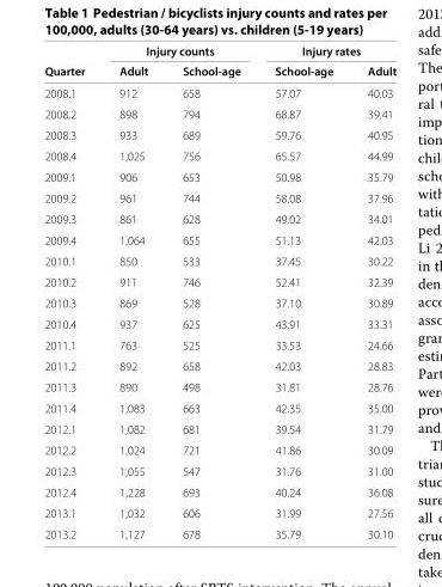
<table><thead><tr><td rowspan="2">Quarter</td><td colspan="2">Injury counts</td><td colspan="2">Injury rates</td></tr><tr><td>Adult</td><td>School-age</td><td>School-age</td><td>Adult</td></tr></thead><tbody><tr><td>2008.1</td><td>912</td><td>658</td><td>57.07</td><td>40.03</td></tr><tr><td>2008.2</td><td>898</td><td>794</td><td>68.87</td><td>39.41</td></tr><tr><td>2008.3</td><td>933</td><td>689</td><td>59.76</td><td>40.95</td></tr><tr><td>2008.4</td><td>1,025</td><td>756</td><td>65.57</td><td>44.99</td></tr><tr><td>2009.1</td><td>906</td><td>653</td><td>50.98</td><td>35.79</td></tr><tr><td>2009.2</td><td>961</td><td>744</td><td>58.08</td><td>37.96</td></tr><tr><td>2009.3</td><td>861</td><td>628</td><td>49.02</td><td>34.01</td></tr><tr><td>2009.4</td><td>1,064</td><td>655</td><td>51.13</td><td>42.03</td></tr><tr><td>2010.1</td><td>850</td><td>533</td><td>37.45</td><td>30.22</td></tr><tr><td>2010.2</td><td>911</td><td>746</td><td>52.41</td><td>32.39</td></tr><tr><td>2010.3</td><td>869</td><td>528</td><td>37.10</td><td>30.89</td></tr><tr><td>2010.4</td><td>937</td><td>625</td><td>43.91</td><td>33.31</td></tr><tr><td>2011.1</td><td>763</td><td>525</td><td>33.53</td><td>24.66</td></tr><tr><td>2011.2</td><td>892</td><td>658</td><td>42.03</td><td>28.83</td></tr><tr><td>2011.3</td><td>890</td><td>498</td><td>31.81</td><td>28.76</td></tr><tr><td>2011.4</td><td>1,083</td><td>663</td><td>42.35</td><td>35.00</td></tr><tr><td>2012.1</td><td>1,082</td><td>681</td><td>39.54</td><td>31.79</td></tr><tr><td>2012.2</td><td>1,024</td><td>721</td><td>41.86</td><td>30.09</td></tr><tr><td>2012.3</td><td>1,055</td><td>547</td><td>31.76</td><td>31.00</td></tr><tr><td>2012.4</td><td>1,228</td><td>693</td><td>40.24</td><td>36.08</td></tr><tr><td>2013.1</td><td>1,032</td><td>606</td><td>31.99</td><td>27.56</td></tr><tr><td>2013.2</td><td>1,127</td><td>678</td><td>35.79</td><td>30.10</td></tr></tbody></table>